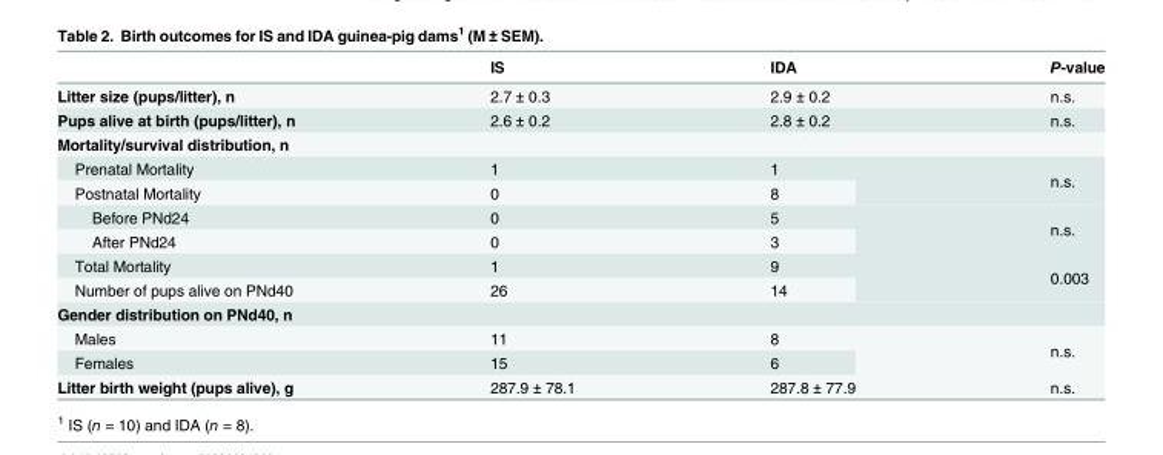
<table><thead><tr><td></td><td>IS</td><td>IDA</td><td>P-value</td></tr></thead><tbody><tr><td>Litter size (pups/litter), n</td><td>2.7 ± 0.3</td><td>2.9 ± 0.2</td><td>n.s.</td></tr><tr><td>Pups alive at birth (pups/litter), n</td><td>2.6 ± 0.2</td><td>2.8 ± 0.2</td><td>n.s.</td></tr><tr><td colspan="4">Mortality/survival distribution, n</td></tr><tr><td>Prenatal Mortality</td><td>1</td><td>1</td><td rowspan="2">n.s.</td></tr><tr><td>Postnatal Mortality</td><td>0</td><td>8</td></tr><tr><td>Before PNd24</td><td>0</td><td>5</td><td rowspan="2">n.s.</td></tr><tr><td>After PNd24</td><td>0</td><td>3</td></tr><tr><td>Total Mortality</td><td>1</td><td>9</td><td rowspan="2">0.003</td></tr><tr><td>Number of pups alive on PNd40</td><td>26</td><td>14</td></tr><tr><td colspan="4">Gender distribution on PNd40, n</td></tr><tr><td>Males</td><td>11</td><td>8</td><td rowspan="2">n.s.</td></tr><tr><td>Females</td><td>15</td><td>6</td></tr><tr><td>Litter birth weight (pups alive), g</td><td>287.9 ± 78.1</td><td>287.8 ± 77.9</td><td>n.s.</td></tr></tbody></table>